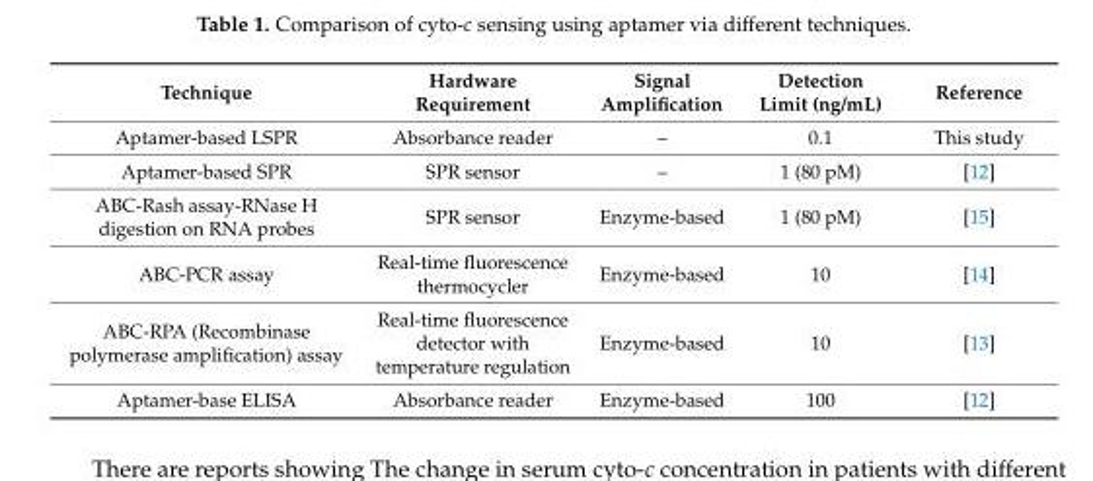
<table><thead><tr><td>Technique</td><td>Hardware Requirement</td><td>Signal Amplification</td><td>Detection Limit (ng/mL)</td><td>Reference</td></tr></thead><tbody><tr><td>Aptamer-based LSPR</td><td>Absorbance reader</td><td>–</td><td>0.1</td><td>This study</td></tr><tr><td>Aptamer-based SPR</td><td>SPR sensor</td><td>–</td><td>1 (80 pM)</td><td>[12]</td></tr><tr><td>ABC-Rash assay-RNase H digestion on RNA probes</td><td>SPR sensor</td><td>Enzyme-based</td><td>1 (80 pM)</td><td>[15]</td></tr><tr><td>ABC-PCR assay</td><td>Real-time fluorescence thermocycler</td><td>Enzyme-based</td><td>10</td><td>[14]</td></tr><tr><td>ABC-RPA (Recombinase polymerase amplification) assay</td><td>Real-time fluorescence detector with temperature regulation</td><td>Enzyme-based</td><td>10</td><td>[13]</td></tr><tr><td>Aptamer-base ELISA</td><td>Absorbance reader</td><td>Enzyme-based</td><td>100</td><td>[12]</td></tr></tbody></table>